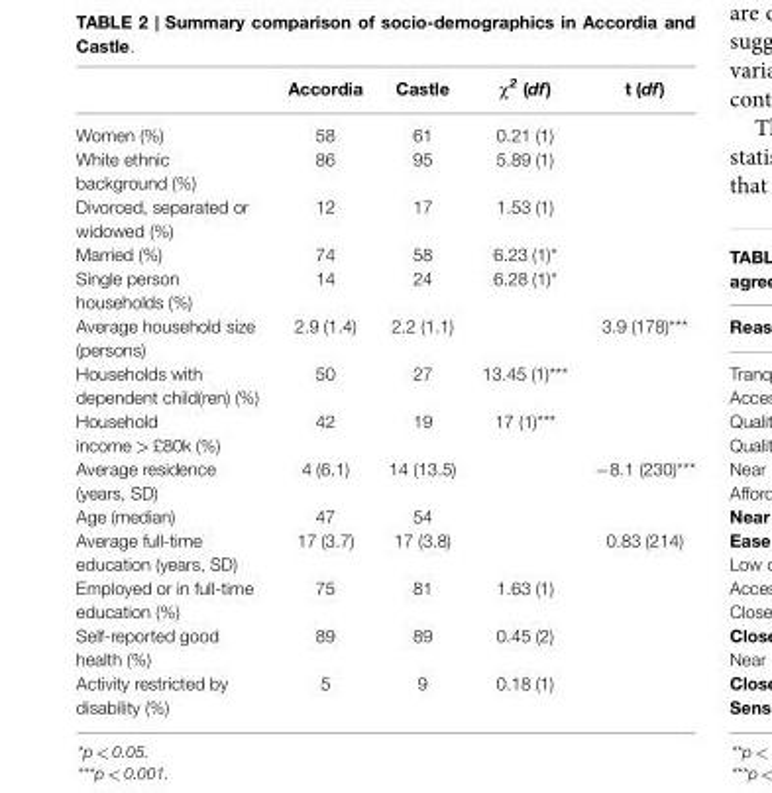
<table><thead><tr><td></td><td>Accordia</td><td>Castle</td><td>χ<sup>2</sup> (df)</td><td>t (df)</td></tr></thead><tbody><tr><td>Women (%)</td><td>58</td><td>61</td><td>0.21 (1)</td><td></td></tr><tr><td>White ethnic background (%)</td><td>86</td><td>95</td><td>5.89 (1)</td><td></td></tr><tr><td>Divorced, separated or widowed (%)</td><td>12</td><td>17</td><td>1.53 (1)</td><td></td></tr><tr><td>Married (%)</td><td>74</td><td>58</td><td>6.23 (1)*</td><td></td></tr><tr><td>Single person households (%)</td><td>14</td><td>24</td><td>6.28 (1)*</td><td></td></tr><tr><td>Average household size (persons)</td><td>2.9 (1.4)</td><td>2.2 (1.1)</td><td></td><td>3.9 (178)***</td></tr><tr><td>Households with dependent child(ren) (%)</td><td>50</td><td>27</td><td>13.45 (1)***</td><td></td></tr><tr><td>Household income &gt; £80k (%)</td><td>42</td><td>19</td><td>17 (1)***</td><td></td></tr><tr><td>Average residence (years, SD)</td><td>4 (6.1)</td><td>14 (13.5)</td><td></td><td>−8.1 (230)***</td></tr><tr><td>Age (median)</td><td>47</td><td>54</td><td></td><td></td></tr><tr><td>Average full-time education (years, SD)</td><td>17 (3.7)</td><td>17 (3.8)</td><td></td><td>0.83 (214)</td></tr><tr><td>Employed or in full-time education (%)</td><td>75</td><td>81</td><td>1.63 (1)</td><td></td></tr><tr><td>Self-reported good health (%)</td><td>89</td><td>89</td><td>0.45 (2)</td><td></td></tr><tr><td>Activity restricted by disability (%)</td><td>5</td><td>9</td><td>0.18 (1)</td><td></td></tr></tbody></table>